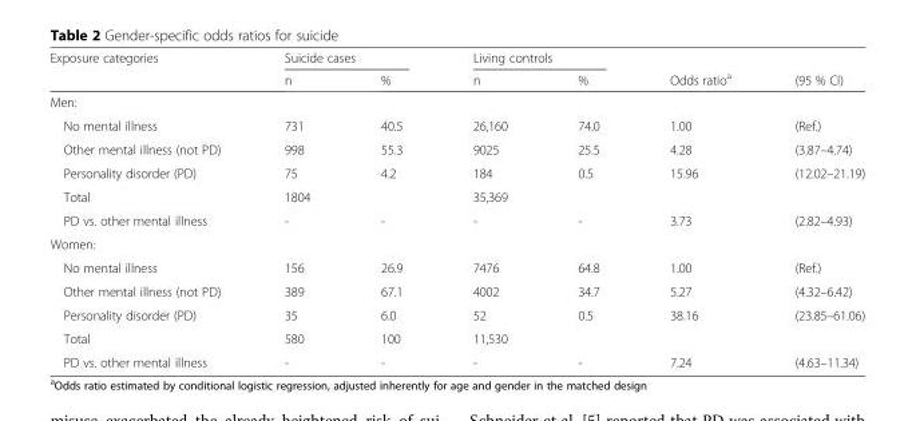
<table><thead><tr><td rowspan="2">Exposure categories</td><td colspan="2">Suicide cases</td><td colspan="2">Living controls</td><td rowspan="2">Odds ratio<sup>a</sup></td><td rowspan="2">(95 % CI)</td></tr><tr><td>n</td><td>%</td><td>n</td><td>%</td></tr></thead><tbody><tr><td colspan="7">Men:</td></tr><tr><td>No mental illness</td><td>731</td><td>40.5</td><td>26,160</td><td>74.0</td><td>1.00</td><td>(Ref.)</td></tr><tr><td>Other mental illness (not PD)</td><td>998</td><td>55.3</td><td>9025</td><td>25.5</td><td>4.28</td><td>(3.87–4.74)</td></tr><tr><td>Personality disorder (PD)</td><td>75</td><td>4.2</td><td>184</td><td>0.5</td><td>15.96</td><td>(12.02–21.19)</td></tr><tr><td>Total</td><td>1804</td><td></td><td>35,369</td><td></td><td></td><td></td></tr><tr><td>PD vs. other mental illness</td><td>-</td><td>-</td><td>-</td><td>-</td><td>3.73</td><td>(2.82–4.93)</td></tr><tr><td colspan="7">Women:</td></tr><tr><td>No mental illness</td><td>156</td><td>26.9</td><td>7476</td><td>64.8</td><td>1.00</td><td>(Ref.)</td></tr><tr><td>Other mental illness (not PD)</td><td>389</td><td>67.1</td><td>4002</td><td>34.7</td><td>5.27</td><td>(4.32–6.42)</td></tr><tr><td>Personality disorder (PD)</td><td>35</td><td>6.0</td><td>52</td><td>0.5</td><td>38.16</td><td>(23.85–61.06)</td></tr><tr><td>Total</td><td>580</td><td>100</td><td>11,530</td><td></td><td></td><td></td></tr><tr><td>PD vs. other mental illness</td><td>-</td><td>-</td><td>-</td><td>-</td><td>7.24</td><td>(4.63–11.34)</td></tr></tbody></table>